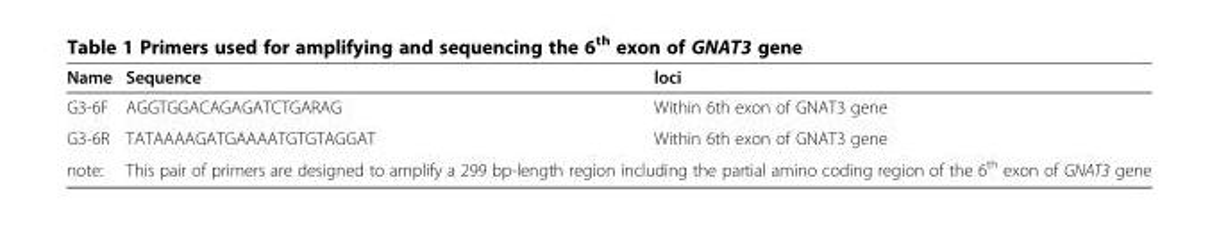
<table><thead><tr><td>Name</td><td>Sequence</td><td>loci</td></tr></thead><tbody><tr><td>G3-6F</td><td>AGGTGGACAGAGATCTGARAG</td><td>Within 6th exon of GNAT3 gene</td></tr><tr><td>G3-6R</td><td>TATAAAAGATGAAAATGTGTAGGAT</td><td>Within 6th exon of GNAT3 gene</td></tr><tr><td>note:</td><td colspan="2">This pair of primers are designed to amplify a 299 bp-length region including the partial amino coding region of the 6<sup>th</sup> exon of GNAT3 gene</td></tr></tbody></table>